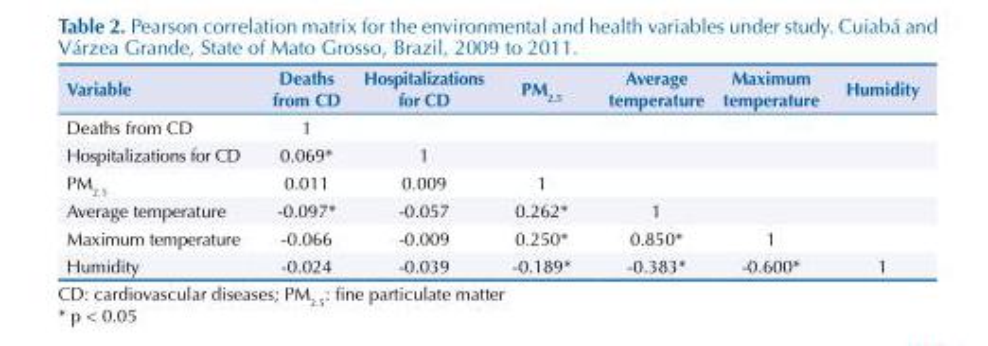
<table><thead><tr><td>Variable</td><td>Deaths from CD</td><td>Hospitalizations for CD</td><td>PM<sub>2.5</sub></td><td>Average temperature</td><td>Maximum temperature</td><td>Humidity</td></tr></thead><tbody><tr><td>Deaths from CD</td><td>1</td><td></td><td></td><td></td><td></td><td></td></tr><tr><td>Hospitalizations for CD</td><td>0.069*</td><td>1</td><td></td><td></td><td></td><td></td></tr><tr><td>PM<sub>2.5</sub></td><td>0.011</td><td>0.009</td><td>1</td><td></td><td></td><td></td></tr><tr><td>Average temperature</td><td>-0.097*</td><td>-0.057</td><td>0.262*</td><td>1</td><td></td><td></td></tr><tr><td>Maximum temperature</td><td>-0.066</td><td>-0.009</td><td>0.250*</td><td>0.850*</td><td>1</td><td></td></tr><tr><td>Humidity</td><td>-0.024</td><td>-0.039</td><td>-0.189*</td><td>-0.383*</td><td>-0.600*</td><td>1</td></tr></tbody></table>